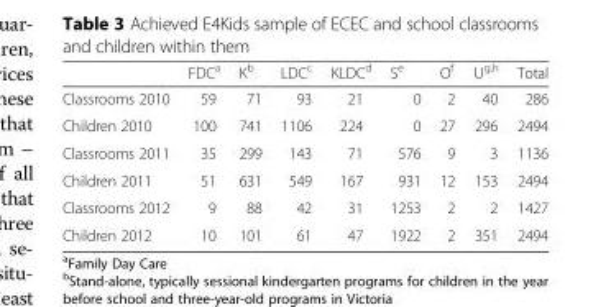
<table><thead><tr><td></td><td>FDC<sup>a</sup></td><td>K<sup>b</sup></td><td>LDC<sup>c</sup></td><td>KLDC<sup>d</sup></td><td>S<sup>e</sup></td><td>O<sup>f</sup></td><td>U<sup>g,h</sup></td><td>Total</td></tr></thead><tbody><tr><td>Classrooms 2010</td><td>59</td><td>71</td><td>93</td><td>21</td><td>0</td><td>2</td><td>40</td><td>286</td></tr><tr><td>Children 2010</td><td>100</td><td>741</td><td>1106</td><td>224</td><td>0</td><td>27</td><td>296</td><td>2494</td></tr><tr><td>Classrooms 2011</td><td>35</td><td>299</td><td>143</td><td>71</td><td>576</td><td>9</td><td>3</td><td>1136</td></tr><tr><td>Children 2011</td><td>51</td><td>631</td><td>549</td><td>167</td><td>931</td><td>12</td><td>153</td><td>2494</td></tr><tr><td>Classrooms 2012</td><td>9</td><td>88</td><td>42</td><td>31</td><td>1253</td><td>2</td><td>2</td><td>1427</td></tr><tr><td>Children 2012</td><td>10</td><td>101</td><td>61</td><td>47</td><td>1922</td><td>2</td><td>351</td><td>2494</td></tr></tbody></table>